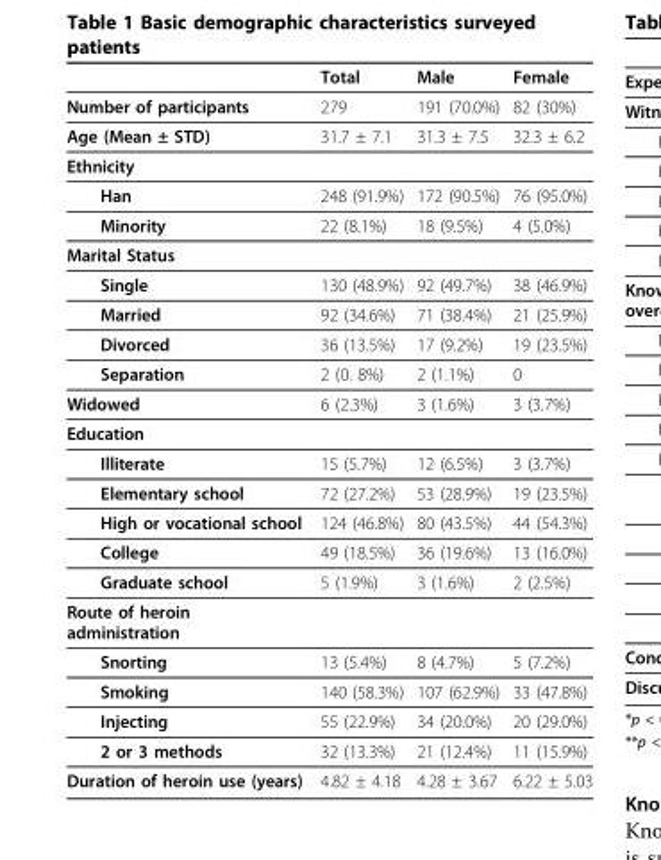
<table><thead><tr><td></td><td>Total</td><td>Male</td><td>Female</td></tr></thead><tbody><tr><td>Number of participants</td><td>279</td><td>191 (70.0%)</td><td>82 (30%)</td></tr><tr><td>Age (Mean ± STD)</td><td>31.7 ± 7.1</td><td>31.3 ± 7.5</td><td>32.3 ± 6.2</td></tr><tr><td colspan="4">Ethnicity</td></tr><tr><td>Han</td><td>248 (91.9%)</td><td>172 (90.5%)</td><td>76 (95.0%)</td></tr><tr><td>Minority</td><td>22 (8.1%)</td><td>18 (9.5%)</td><td>4 (5.0%)</td></tr><tr><td colspan="4">Marital Status</td></tr><tr><td>Single</td><td>130 (48.9%)</td><td>92 (49.7%)</td><td>38 (46.9%)</td></tr><tr><td>Married</td><td>92 (34.6%)</td><td>71 (38.4%)</td><td>21 (25.9%)</td></tr><tr><td>Divorced</td><td>36 (13.5%)</td><td>17 (9.2%)</td><td>19 (23.5%)</td></tr><tr><td>Separation</td><td>2 (0. 8%)</td><td>2 (1.1%)</td><td>0</td></tr><tr><td>Widowed</td><td>6 (2.3%)</td><td>3 (1.6%)</td><td>3 (3.7%)</td></tr><tr><td colspan="4">Education</td></tr><tr><td>Illiterate</td><td>15 (5.7%)</td><td>12 (6.5%)</td><td>3 (3.7%)</td></tr><tr><td>Elementary school</td><td>72 (27.2%)</td><td>53 (28.9%)</td><td>19 (23.5%)</td></tr><tr><td>High or vocational school</td><td>124 (46.8%)</td><td>80 (43.5%)</td><td>44 (54.3%)</td></tr><tr><td>College</td><td>49 (18.5%)</td><td>36 (19.6%)</td><td>13 (16.0%)</td></tr><tr><td>Graduate school</td><td>5 (1.9%)</td><td>3 (1.6%)</td><td>2 (2.5%)</td></tr><tr><td colspan="4">Route of heroin administration</td></tr><tr><td>Snorting</td><td>13 (5.4%)</td><td>8 (4.7%)</td><td>5 (7.2%)</td></tr><tr><td>Smoking</td><td>140 (58.3%)</td><td>107 (62.9%)</td><td>33 (47.8%)</td></tr><tr><td>Injecting</td><td>55 (22.9%)</td><td>34 (20.0%)</td><td>20 (29.0%)</td></tr><tr><td>2 or 3 methods</td><td>32 (13.3%)</td><td>21 (12.4%)</td><td>11 (15.9%)</td></tr><tr><td>Duration of heroin use (years)</td><td>4.82 ± 4.18</td><td>4.28 ± 3.67</td><td>6.22 ± 5.03</td></tr></tbody></table>